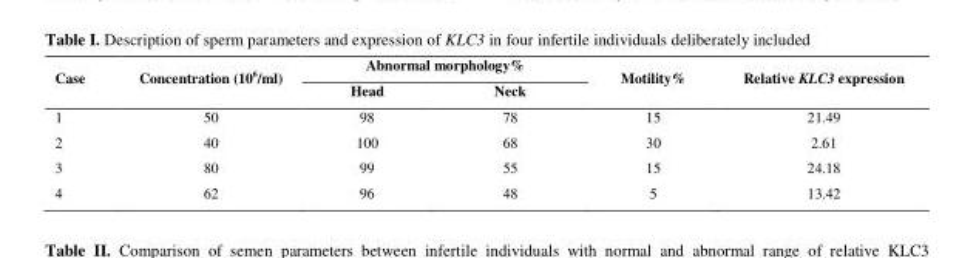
<table><thead><tr><td rowspan="2">Case</td><td rowspan="2">Concentration (10<sup>6</sup>/ml)</td><td colspan="2">Abnormal morphology%</td><td rowspan="2">Motility%</td><td rowspan="2">Relative KLC3 expression</td></tr><tr><td>Head</td><td>Neck</td></tr></thead><tbody><tr><td>1</td><td>50</td><td>98</td><td>78</td><td>15</td><td>21.49</td></tr><tr><td>2</td><td>40</td><td>100</td><td>68</td><td>30</td><td>2.61</td></tr><tr><td>3</td><td>80</td><td>99</td><td>55</td><td>15</td><td>24.18</td></tr><tr><td>4</td><td>62</td><td>96</td><td>48</td><td>5</td><td>13.42</td></tr></tbody></table>